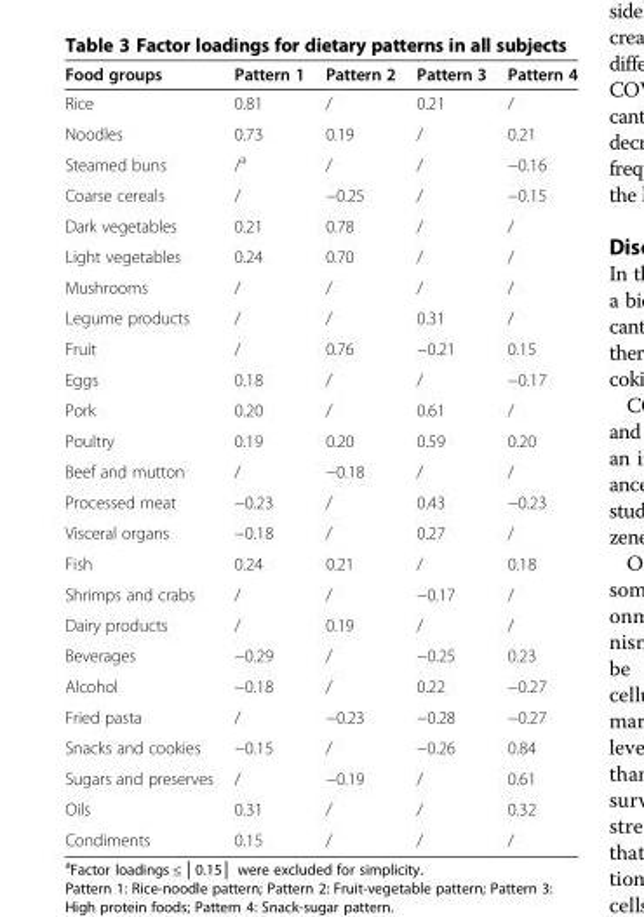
<table><thead><tr><td>Food groups</td><td>Pattern 1</td><td>Pattern 2</td><td>Pattern 3</td><td>Pattern 4</td></tr></thead><tbody><tr><td>Rice</td><td>0.81</td><td>/</td><td>0.21</td><td>/</td></tr><tr><td>Noodles</td><td>0.73</td><td>0.19</td><td>/</td><td>0.21</td></tr><tr><td>Steamed buns</td><td>/<sup>a</sup></td><td>/</td><td>/</td><td>−0.16</td></tr><tr><td>Coarse cereals</td><td>/</td><td>−0.25</td><td>/</td><td>−0.15</td></tr><tr><td>Dark vegetables</td><td>0.21</td><td>0.78</td><td>/</td><td>/</td></tr><tr><td>Light vegetables</td><td>0.24</td><td>0.70</td><td>/</td><td>/</td></tr><tr><td>Mushrooms</td><td>/</td><td>/</td><td>/</td><td>/</td></tr><tr><td>Legume products</td><td>/</td><td>/</td><td>0.31</td><td>/</td></tr><tr><td>Fruit</td><td>/</td><td>0.76</td><td>−0.21</td><td>0.15</td></tr><tr><td>Eggs</td><td>0.18</td><td>/</td><td>/</td><td>−0.17</td></tr><tr><td>Pork</td><td>0.20</td><td>/</td><td>0.61</td><td>/</td></tr><tr><td>Poultry</td><td>0.19</td><td>0.20</td><td>0.59</td><td>0.20</td></tr><tr><td>Beef and mutton</td><td>/</td><td>−0.18</td><td>/</td><td>/</td></tr><tr><td>Processed meat</td><td>−0.23</td><td>/</td><td>0.43</td><td>−0.23</td></tr><tr><td>Visceral organs</td><td>−0.18</td><td>/</td><td>0.27</td><td>/</td></tr><tr><td>Fish</td><td>0.24</td><td>0.21</td><td>/</td><td>0.18</td></tr><tr><td>Shrimps and crabs</td><td>/</td><td>/</td><td>−0.17</td><td>/</td></tr><tr><td>Dairy products</td><td>/</td><td>0.19</td><td>/</td><td>/</td></tr><tr><td>Beverages</td><td>−0.29</td><td>/</td><td>−0.25</td><td>0.23</td></tr><tr><td>Alcohol</td><td>−0.18</td><td>/</td><td>0.22</td><td>−0.27</td></tr><tr><td>Fried pasta</td><td>/</td><td>−0.23</td><td>−0.28</td><td>−0.27</td></tr><tr><td>Snacks and cookies</td><td>−0.15</td><td>/</td><td>−0.26</td><td>0.84</td></tr><tr><td>Sugars and preserves</td><td>/</td><td>−0.19</td><td>/</td><td>0.61</td></tr><tr><td>Oils</td><td>0.31</td><td>/</td><td>/</td><td>0.32</td></tr><tr><td>Condiments</td><td>0.15</td><td>/</td><td>/</td><td>/</td></tr></tbody></table>